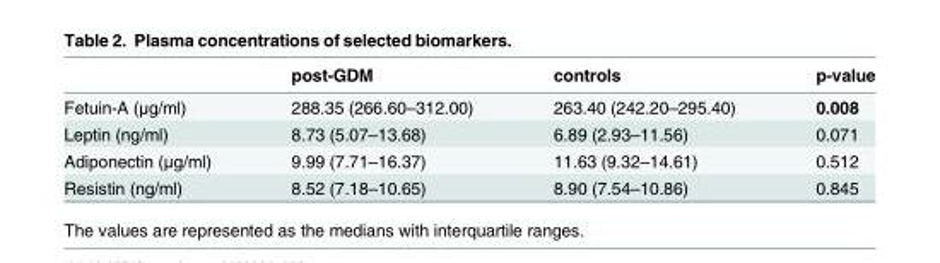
<table><thead><tr><td></td><td>post-GDM</td><td>controls</td><td>p-value</td></tr></thead><tbody><tr><td>Fetuin-A (μg/ml)</td><td>288.35 (266.60–312.00)</td><td>263.40 (242.20–295.40)</td><td>0.008</td></tr><tr><td>Leptin (ng/ml)</td><td>8.73 (5.07–13.68)</td><td>6.89 (2.93–11.56)</td><td>0.071</td></tr><tr><td>Adiponectin (μg/ml)</td><td>9.99 (7.71–16.37)</td><td>11.63 (9.32–14.61)</td><td>0.512</td></tr><tr><td>Resistin (ng/ml)</td><td>8.52 (7.18–10.65)</td><td>8.90 (7.54–10.86)</td><td>0.845</td></tr></tbody></table>